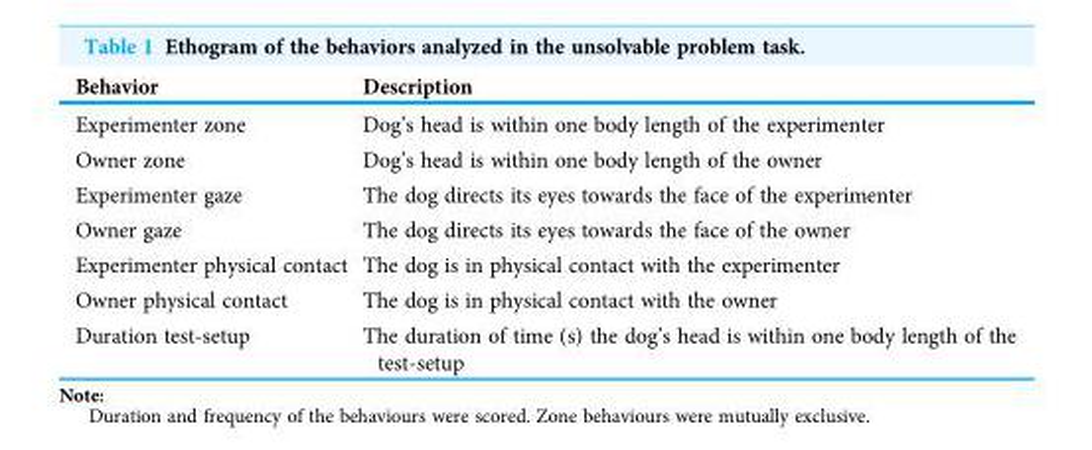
<table><thead><tr><td>Behavior</td><td>Description</td></tr></thead><tbody><tr><td>Experimenter zone</td><td>Dog’s head is within one body length of the experimenter</td></tr><tr><td>Owner zone</td><td>Dog’s head is within one body length of the owner</td></tr><tr><td>Experimenter gaze</td><td>The dog directs its eyes towards the face of the experimenter</td></tr><tr><td>Owner gaze</td><td>The dog directs its eyes towards the face of the owner</td></tr><tr><td>Experimenter physical contact</td><td>The dog is in physical contact with the experimenter</td></tr><tr><td>Owner physical contact</td><td>The dog is in physical contact with the owner</td></tr><tr><td>Duration test-setup</td><td>The duration of time (s) the dog’s head is within one body length of the test-setup</td></tr></tbody></table>